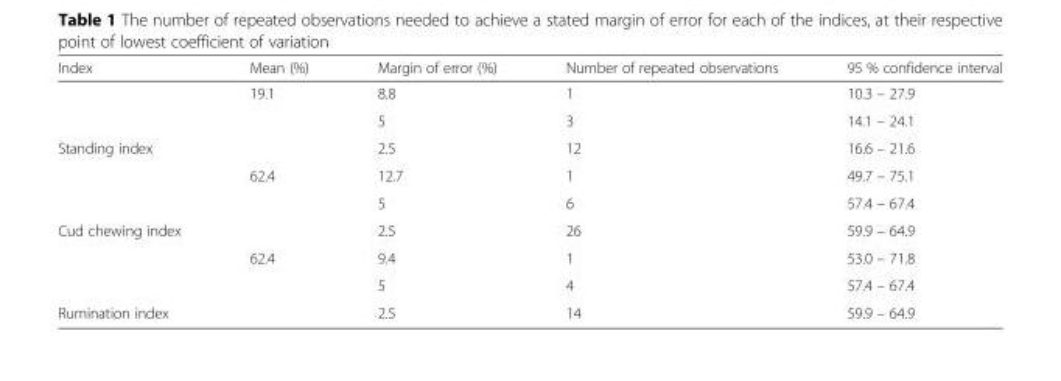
<table><thead><tr><td>Index</td><td>Mean (%)</td><td>Margin of error (%)</td><td>Number of repeated observations</td><td>95 % confidence interval</td></tr></thead><tbody><tr><td rowspan="3">Standing index</td><td>19.1</td><td>8.8</td><td>1</td><td>10.3 – 27.9</td></tr><tr><td></td><td>5</td><td>3</td><td>14.1 – 24.1</td></tr><tr><td></td><td>2.5</td><td>12</td><td>16.6 – 21.6</td></tr><tr><td rowspan="5">Cud chewing index</td><td>62.4</td><td>12.7</td><td>1</td><td>49.7 – 75.1</td></tr><tr><td></td><td>5</td><td>6</td><td>57.4 – 67.4</td></tr><tr><td></td><td>2.5</td><td>26</td><td>59.9 – 64.9</td></tr><tr><td>62.4</td><td>9.4</td><td>1</td><td>53.0 – 71.8</td></tr><tr><td></td><td>5</td><td>4</td><td>57.4 – 67.4</td></tr><tr><td>Rumination index</td><td></td><td>2.5</td><td>14</td><td>59.9 – 64.9</td></tr></tbody></table>